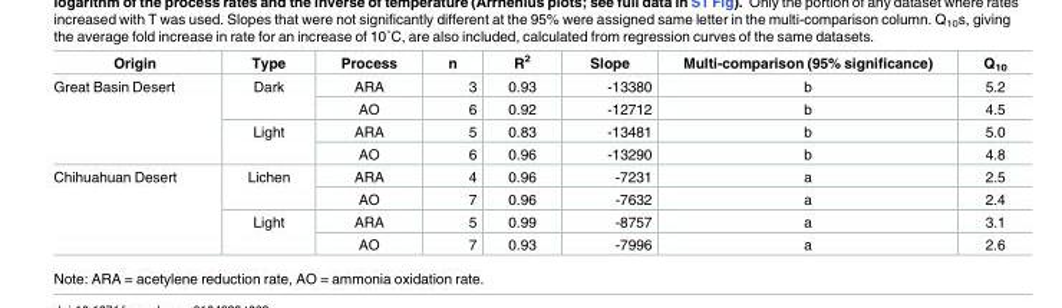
<table><thead><tr><td>Origin</td><td>Type</td><td>Process</td><td>n</td><td>R<sup>2</sup></td><td>Slope</td><td>Multi-comparison (95% significance)</td><td>Q<sub>10</sub></td></tr></thead><tbody><tr><td rowspan="4">Great Basin Desert</td><td rowspan="2">Dark</td><td>ARA</td><td>3</td><td>0.93</td><td>-13380</td><td>b</td><td>5.2</td></tr><tr><td>AO</td><td>6</td><td>0.92</td><td>-12712</td><td>b</td><td>4.5</td></tr><tr><td rowspan="2">Light</td><td>ARA</td><td>5</td><td>0.83</td><td>-13481</td><td>b</td><td>5.0</td></tr><tr><td>AO</td><td>6</td><td>0.96</td><td>-13290</td><td>b</td><td>4.8</td></tr><tr><td rowspan="4">Chihuahuan Desert</td><td rowspan="2">Lichen</td><td>ARA</td><td>4</td><td>0.96</td><td>-7231</td><td>a</td><td>2.5</td></tr><tr><td>AO</td><td>7</td><td>0.96</td><td>-7632</td><td>a</td><td>2.4</td></tr><tr><td rowspan="2">Light</td><td>ARA</td><td>5</td><td>0.99</td><td>-8757</td><td>a</td><td>3.1</td></tr><tr><td>AO</td><td>7</td><td>0.93</td><td>-7996</td><td>a</td><td>2.6</td></tr></tbody></table>